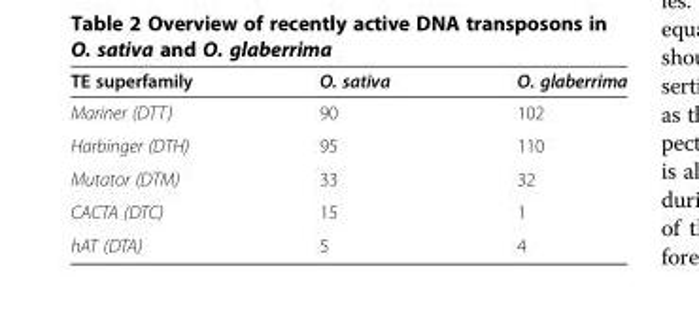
<table><thead><tr><td>TE superfamily</td><td>O. sativa</td><td>O. glaberrima</td></tr></thead><tbody><tr><td>Mariner (DTT)</td><td>90</td><td>102</td></tr><tr><td>Harbinger (DTH)</td><td>95</td><td>110</td></tr><tr><td>Mutator (DTM)</td><td>33</td><td>32</td></tr><tr><td>CACTA (DTC)</td><td>15</td><td>1</td></tr><tr><td>hAT (DTA)</td><td>5</td><td>4</td></tr></tbody></table>